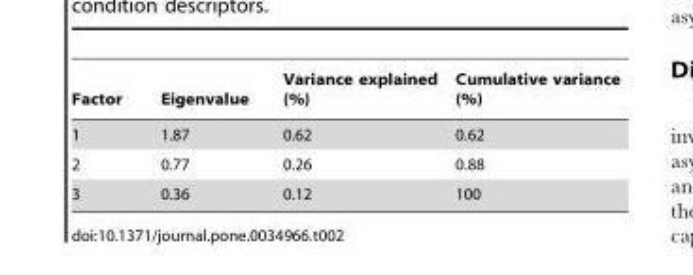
<table><thead><tr><td>Factor</td><td>Eigenvalue</td><td>Variance explained (%)</td><td>Cumulative variance (%)</td></tr></thead><tbody><tr><td>1</td><td>1.87</td><td>0.62</td><td>0.62</td></tr><tr><td>2</td><td>0.77</td><td>0.26</td><td>0.88</td></tr><tr><td>3</td><td>0.36</td><td>0.12</td><td>100</td></tr></tbody></table>